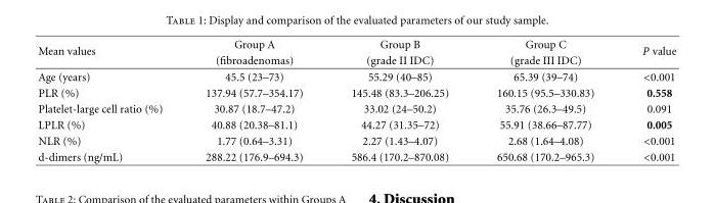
<table><thead><tr><td rowspan="2">Mean values</td><td rowspan="2">Group A (fibroadenomas)</td><td rowspan="2">Group B (grade II IDC)</td><td rowspan="2">Group C (grade III IDC)</td><td rowspan="2">P value</td></tr><tr></tr></thead><tbody><tr><td>Age (years)</td><td>45.5 (23–73)</td><td>55.29 (40–85)</td><td>65.39 (39–74)</td><td>&lt;0.001</td></tr><tr><td>PLR (%)</td><td>137.94 (57.7–354.17)</td><td>145.48 (83.3–206.25)</td><td>160.15 (95.5–330.83)</td><td>0.558</td></tr><tr><td>Platelet-large cell ratio (%)</td><td>30.87 (18.7–47.2)</td><td>33.02 (24–50.2)</td><td>35.76 (26.3–49.5)</td><td>0.091</td></tr><tr><td>LPLR (%)</td><td>40.88 (20.38–81.1)</td><td>44.27 (31.35–72)</td><td>55.91 (38.66–87.77)</td><td>0.005</td></tr><tr><td>NLR (%)</td><td>1.77 (0.64–3.31)</td><td>2.27 (1.43–4.07)</td><td>2.68 (1.64–4.08)</td><td>&lt;0.001</td></tr><tr><td>d-dimers (ng/mL)</td><td>288.22 (176.9–694.3)</td><td>586.4 (170.2–870.08)</td><td>650.68 (170.2–965.3)</td><td>&lt;0.001</td></tr></tbody></table>